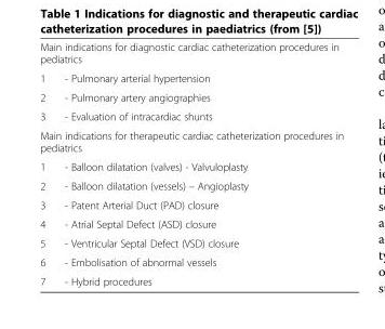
<table><tbody><tr><td colspan="2">Main indications for diagnostic cardiac catheterization procedures in pediatrics</td></tr><tr><td>1</td><td>- Pulmonary arterial hypertension</td></tr><tr><td>2</td><td>- Pulmonary artery angiographies</td></tr><tr><td>3</td><td>- Evaluation of intracardiac shunts</td></tr><tr><td colspan="2">Main indications for therapeutic cardiac catheterization procedures in pediatrics</td></tr><tr><td>1</td><td>- Balloon dilatation (valves) - Valvuloplasty</td></tr><tr><td>2</td><td>- Balloon dilatation (vessels) – Angioplasty</td></tr><tr><td>3</td><td>- Patent Arterial Duct (PAD) closure</td></tr><tr><td>4</td><td>- Atrial Septal Defect (ASD) closure</td></tr><tr><td>5</td><td>- Ventricular Septal Defect (VSD) closure</td></tr><tr><td>6</td><td>- Embolisation of abnormal vessels</td></tr><tr><td>7</td><td>- Hybrid procedures</td></tr></tbody></table>